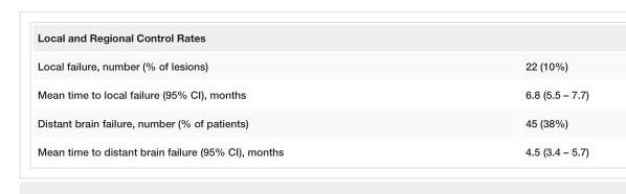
<table><tbody><tr><td colspan="2">Local and Regional Control Rates</td></tr><tr><td>Local failure, number (% of lesions)</td><td>22 (10%)</td></tr><tr><td>Mean time to local failure (95% CI), months</td><td>6.8 (5.5 – 7.7)</td></tr><tr><td>Distant brain failure, number (% of patients)</td><td>45 (38%)</td></tr><tr><td>Mean time to distant brain failure (95% CI), months</td><td>4.5 (3.4 – 5.7)</td></tr></tbody></table>